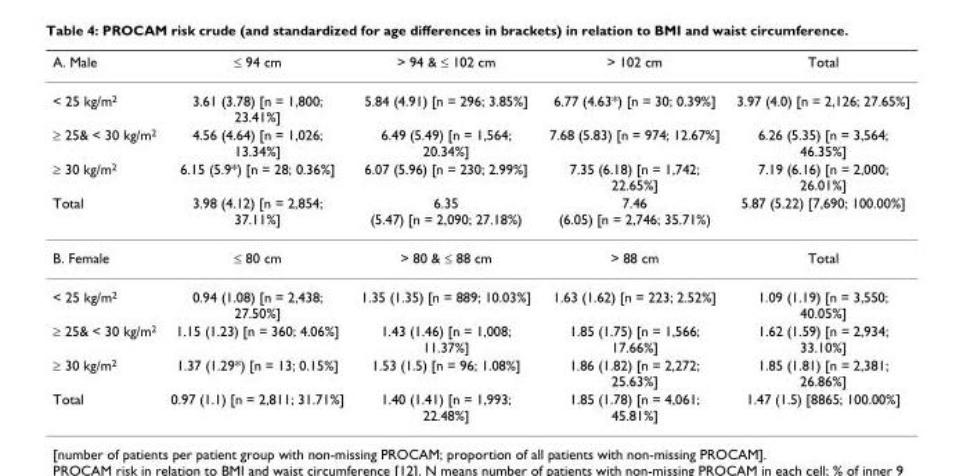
<table><thead><tr><td>A. Male</td><td>≤ 94 cm</td><td>&gt; 94 &amp; ≤ 102 cm</td><td>&gt; 102 cm</td><td>Total</td></tr></thead><tbody><tr><td>&lt; 25 kg/m<sup>2</sup></td><td>3.61 (3.78) [n = 1,800; 23.41%]</td><td>5.84 (4.91) [n = 296; 3.85%]</td><td>6.77 (4.63*) [n = 30; 0.39%]</td><td>3.97 (4.0) [n = 2,126; 27.65%]</td></tr><tr><td>≥ 25&amp; &lt; 30 kg/m<sup>2</sup></td><td>4.56 (4.64) [n = 1,026; 13.34%]</td><td>6.49 (5.49) [n = 1,564; 20.34%]</td><td>7.68 (5.83) [n = 974; 12.67%]</td><td>6.26 (5.35) [n = 3,564; 46.35%]</td></tr><tr><td>≥ 30 kg/m<sup>2</sup></td><td>6.15 (5.9*) [n = 28; 0.36%]</td><td>6.07 (5.96) [n = 230; 2.99%]</td><td>7.35 (6.18) [n = 1,742; 22.65%]</td><td>7.19 (6.16) [n = 2,000; 26.01%]</td></tr><tr><td>Total</td><td>3.98 (4.12) [n = 2,854; 37.11%]</td><td>6.35 (5.47) [n = 2,090; 27.18%)</td><td>7.46 (6.05) [n = 2,746; 35.71%)</td><td>5.87 (5.22) [7,690; 100.00%]</td></tr><tr><td>B. Female</td><td>≤ 80 cm</td><td>&gt; 80 &amp; ≤ 88 cm</td><td>&gt; 88 cm</td><td>Total</td></tr><tr><td>&lt; 25 kg/m<sup>2</sup></td><td>0.94 (1.08) [n = 2,438; 27.50%]</td><td>1.35 (1.35) [n = 889; 10.03%]</td><td>1.63 (1.62) [n = 223; 2.52%]</td><td>1.09 (1.19) [n = 3,550; 40.05%]</td></tr><tr><td>≥ 25&amp; &lt; 30 kg/m<sup>2</sup></td><td>1.15 (1.23) [n = 360; 4.06%]</td><td>1.43 (1.46) [n = 1,008; 11.37%]</td><td>1.85 (1.75) [n = 1,566; 17.66%]</td><td>1.62 (1.59) [n = 2,934; 33.10%]</td></tr><tr><td>≥ 30 kg/m<sup>2</sup></td><td>1.37 (1.29*) [n = 13; 0.15%]</td><td>1.53 (1.5) [n = 96; 1.08%]</td><td>1.86 (1.82) [n = 2,272; 25.63%]</td><td>1.85 (1.81) [n = 2,381; 26.86%]</td></tr><tr><td>Total</td><td>0.97 (1.1) [n = 2,811; 31.71%]</td><td>1.40 (1.41) [n = 1,993; 22.48%]</td><td>1.85 (1.78) [n = 4,061; 45.81%]</td><td>1.47 (1.5) [8865; 100.00%]</td></tr></tbody></table>